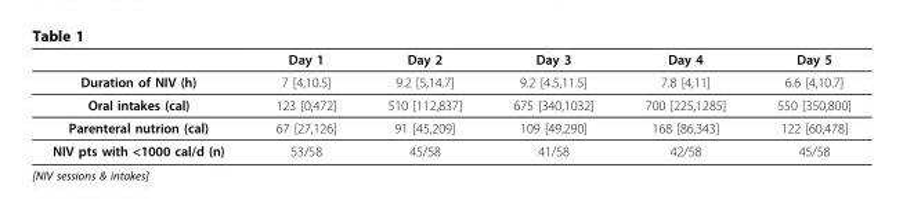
<table><thead><tr><td></td><td>Day 1</td><td>Day 2</td><td>Day 3</td><td>Day 4</td><td>Day 5</td></tr></thead><tbody><tr><td>Duration of NIV (h)</td><td>7 [4,10.5]</td><td>9.2 [5,14.7]</td><td>9.2 [4.5,11.5]</td><td>7.8 [4,11]</td><td>6.6 [4,10.7]</td></tr><tr><td>Oral intakes (cal)</td><td>123 [0,472]</td><td>510 [112,837]</td><td>675 [340,1032]</td><td>700 [225,1285]</td><td>550 [350,800]</td></tr><tr><td>Parenteral nutrion (cal)</td><td>67 [27,126]</td><td>91 [45,209]</td><td>109 [49,290]</td><td>168 [86,343]</td><td>122 [60,478]</td></tr><tr><td>NIV pts with &lt;1000 cal/d (n)</td><td>53/58</td><td>45/58</td><td>41/58</td><td>42/58</td><td>45/58</td></tr></tbody></table>